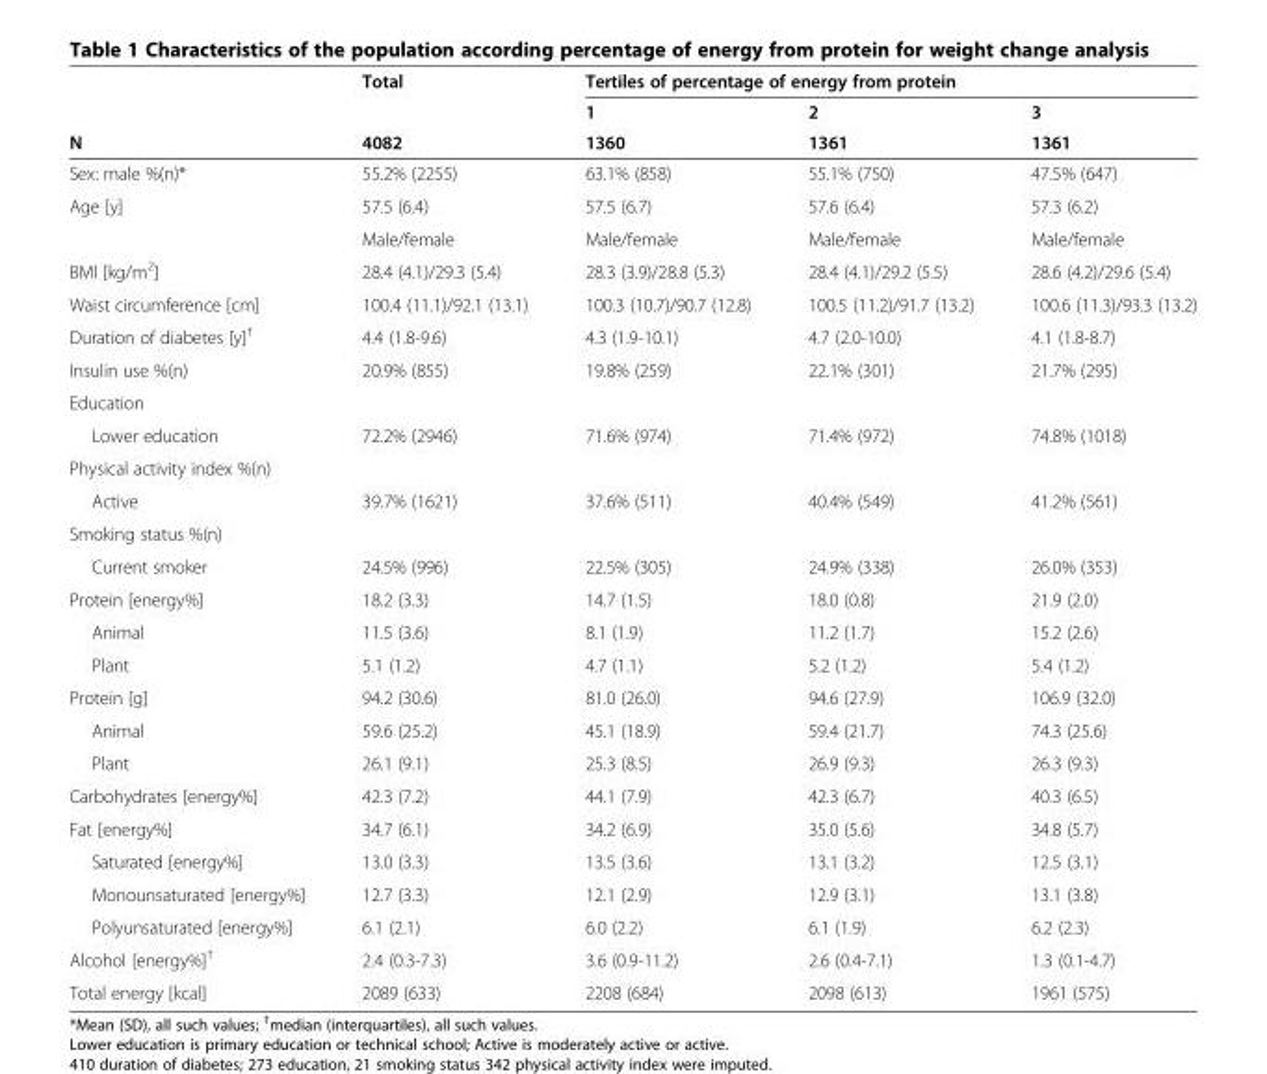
<table><thead><tr><td rowspan="3">N</td><td rowspan="3">Total 4082</td><td colspan="3">Tertiles of percentage of energy from protein</td></tr><tr><td rowspan="2">1 1360</td><td rowspan="2">2 1361</td><td rowspan="2">3 1361</td></tr><tr></tr></thead><tbody><tr><td>Sex: male %(n)*</td><td>55.2% (2255)</td><td>63.1% (858)</td><td>55.1% (750)</td><td>47.5% (647)</td></tr><tr><td rowspan="2">Age [y]</td><td>57.5 (6.4)</td><td>57.5 (6.7)</td><td>57.6 (6.4)</td><td>57.3 (6.2)</td></tr><tr><td>Male/female</td><td>Male/female</td><td>Male/female</td><td>Male/female</td></tr><tr><td>BMI [kg/m<sup>2</sup>]</td><td>28.4 (4.1)/29.3 (5.4)</td><td>28.3 (3.9)/28.8 (5.3)</td><td>28.4 (4.1)/29.2 (5.5)</td><td>28.6 (4.2)/29.6 (5.4)</td></tr><tr><td>Waist circumference [cm]</td><td>100.4 (11.1)/92.1 (13.1)</td><td>100.3 (10.7)/90.7 (12.8)</td><td>100.5 (11.2)/91.7 (13.2)</td><td>100.6 (11.3)/93.3 (13.2)</td></tr><tr><td>Duration of diabetes [y]<sup>†</sup></td><td>4.4 (1.8-9.6)</td><td>4.3 (1.9-10.1)</td><td>4.7 (2.0-10.0)</td><td>4.1 (1.8-8.7)</td></tr><tr><td>Insulin use %(n)</td><td>20.9% (855)</td><td>19.8% (259)</td><td>22.1% (301)</td><td>21.7% (295)</td></tr><tr><td colspan="5">Education</td></tr><tr><td>Lower education</td><td>72.2% (2946)</td><td>71.6% (974)</td><td>71.4% (972)</td><td>74.8% (1018)</td></tr><tr><td colspan="5">Physical activity index %(n)</td></tr><tr><td>Active</td><td>39.7% (1621)</td><td>37.6% (511)</td><td>40.4% (549)</td><td>41.2% (561)</td></tr><tr><td colspan="5">Smoking status %(n)</td></tr><tr><td>Current smoker</td><td>24.5% (996)</td><td>22.5% (305)</td><td>24.9% (338)</td><td>26.0% (353)</td></tr><tr><td>Protein [energy%]</td><td>18.2 (3.3)</td><td>14.7 (1.5)</td><td>18.0 (0.8)</td><td>21.9 (2.0)</td></tr><tr><td>Animal</td><td>11.5 (3.6)</td><td>8.1 (1.9)</td><td>11.2 (1.7)</td><td>15.2 (2.6)</td></tr><tr><td>Plant</td><td>5.1 (1.2)</td><td>4.7 (1.1)</td><td>5.2 (1.2)</td><td>5.4 (1.2)</td></tr><tr><td>Protein [g]</td><td>94.2 (30.6)</td><td>81.0 (26.0)</td><td>94.6 (27.9)</td><td>106.9 (32.0)</td></tr><tr><td>Animal</td><td>59.6 (25.2)</td><td>45.1 (18.9)</td><td>59.4 (21.7)</td><td>74.3 (25.6)</td></tr><tr><td>Plant</td><td>26.1 (9.1)</td><td>25.3 (8.5)</td><td>26.9 (9.3)</td><td>26.3 (9.3)</td></tr><tr><td>Carbohydrates [energy%]</td><td>42.3 (7.2)</td><td>44.1 (7.9)</td><td>42.3 (6.7)</td><td>40.3 (6.5)</td></tr><tr><td>Fat [energy%]</td><td>34.7 (6.1)</td><td>34.2 (6.9)</td><td>35.0 (5.6)</td><td>34.8 (5.7)</td></tr><tr><td>Saturated [energy%]</td><td>13.0 (3.3)</td><td>13.5 (3.6)</td><td>13.1 (3.2)</td><td>12.5 (3.1)</td></tr><tr><td>Monounsaturated [energy%]</td><td>12.7 (3.3)</td><td>12.1 (2.9)</td><td>12.9 (3.1)</td><td>13.1 (3.8)</td></tr><tr><td>Polyunsaturated [energy%]</td><td>6.1 (2.1)</td><td>6.0 (2.2)</td><td>6.1 (1.9)</td><td>6.2 (2.3)</td></tr><tr><td>Alcohol [energy%]<sup>†</sup></td><td>2.4 (0.3-7.3)</td><td>3.6 (0.9-11.2)</td><td>2.6 (0.4-7.1)</td><td>1.3 (0.1-4.7)</td></tr><tr><td>Total energy [kcal]</td><td>2089 (633)</td><td>2208 (684)</td><td>2098 (613)</td><td>1961 (575)</td></tr></tbody></table>